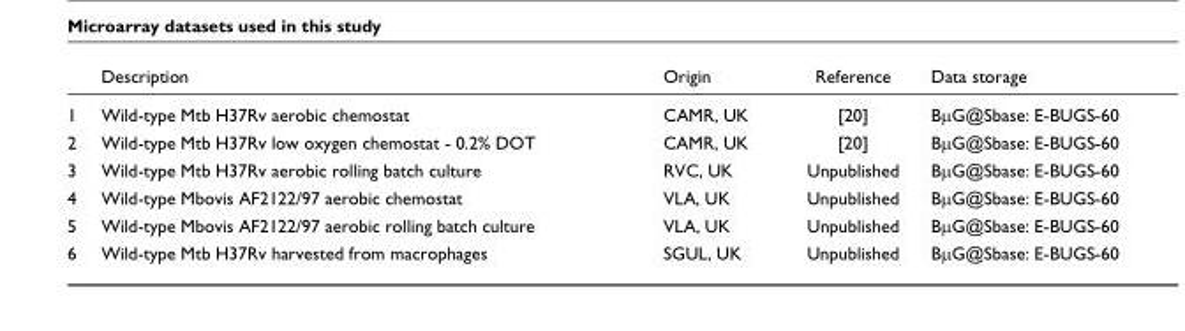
<table><thead><tr><td></td><td>Description</td><td>Origin</td><td>Reference</td><td>Data storage</td></tr></thead><tbody><tr><td>1</td><td>Wild-type Mtb H37Rv aerobic chemostat</td><td>CAMR, UK</td><td>[20]</td><td>BμG@Sbase: E-BUGS-60</td></tr><tr><td>2</td><td>Wild-type Mtb H37Rv low oxygen chemostat - 0.2% DOT</td><td>CAMR, UK</td><td>[20]</td><td>BμG@Sbase: E-BUGS-60</td></tr><tr><td>3</td><td>Wild-type Mtb H37Rv aerobic rolling batch culture</td><td>RVC, UK</td><td>Unpublished</td><td>BμG@Sbase: E-BUGS-60</td></tr><tr><td>4</td><td>Wild-type Mbovis AF2122/97 aerobic chemostat</td><td>VLA, UK</td><td>Unpublished</td><td>BμG@Sbase: E-BUGS-60</td></tr><tr><td>5</td><td>Wild-type Mbovis AF2122/97 aerobic rolling batch culture</td><td>VLA, UK</td><td>Unpublished</td><td>BμG@Sbase: E-BUGS-60</td></tr><tr><td>6</td><td>Wild-type Mtb H37Rv harvested from macrophages</td><td>SGUL, UK</td><td>Unpublished</td><td>BμG@Sbase: E-BUGS-60</td></tr></tbody></table>